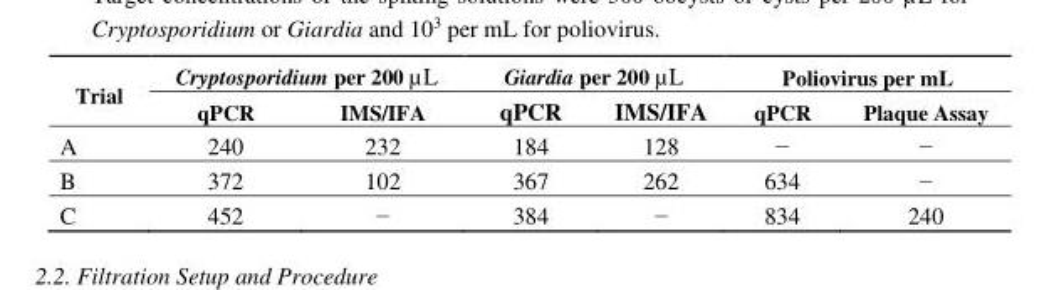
<table><thead><tr><td rowspan="2">Trial</td><td colspan="2">Cryptosporidium per 200 µL</td><td colspan="2">Giardia per 200 µL</td><td colspan="2">Poliovirus per mL</td></tr><tr><td>qPCR</td><td>IMS/IFA</td><td>qPCR</td><td>IMS/IFA</td><td>qPCR</td><td>Plaque Assay</td></tr></thead><tbody><tr><td>A</td><td>240</td><td>232</td><td>184</td><td>128</td><td>−</td><td>−</td></tr><tr><td>B</td><td>372</td><td>102</td><td>367</td><td>262</td><td>634</td><td>−</td></tr><tr><td>C</td><td>452</td><td>−</td><td>384</td><td>−</td><td>834</td><td>240</td></tr></tbody></table>